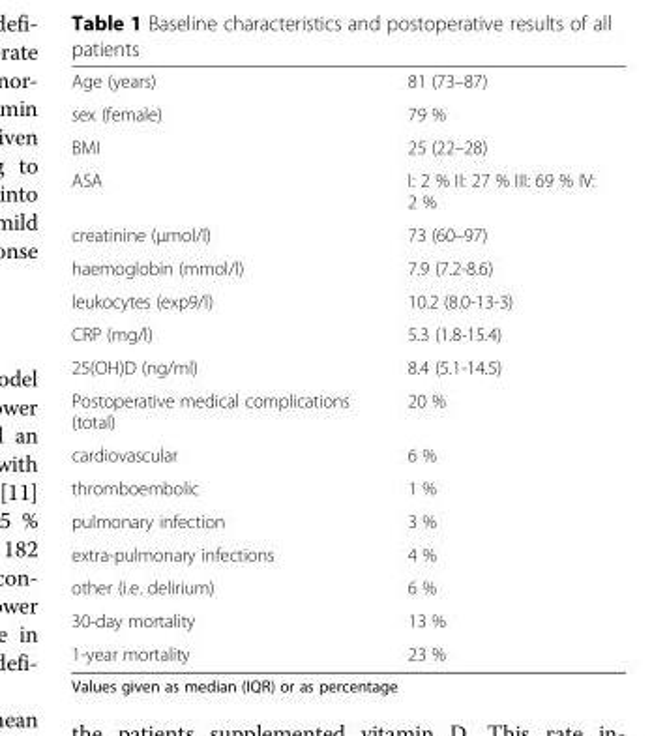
<table><tbody><tr><td>Age (years)</td><td>81 (73–87)</td></tr><tr><td>sex (female)</td><td>79 %</td></tr><tr><td>BMI</td><td>25 (22–28)</td></tr><tr><td>ASA</td><td>I: 2 % II: 27 % III: 69 % IV: 2 %</td></tr><tr><td>creatinine (μmol/l)</td><td>73 (60–97)</td></tr><tr><td>haemoglobin (mmol/l)</td><td>7.9 (7.2-8.6)</td></tr><tr><td>leukocytes (exp9/l)</td><td>10.2 (8.0-13-3)</td></tr><tr><td>CRP (mg/l)</td><td>5.3 (1.8-15.4)</td></tr><tr><td>25(OH)D (ng/ml)</td><td>8.4 (5.1-14.5)</td></tr><tr><td>Postoperative medical complications (total)</td><td>20 %</td></tr><tr><td>cardiovascular</td><td>6 %</td></tr><tr><td>thromboembolic</td><td>1 %</td></tr><tr><td>pulmonary infection</td><td>3 %</td></tr><tr><td>extra-pulmonary infections</td><td>4 %</td></tr><tr><td>other (i.e. delirium)</td><td>6 %</td></tr><tr><td>30-day mortality</td><td>13 %</td></tr><tr><td>1-year mortality</td><td>23 %</td></tr></tbody></table>